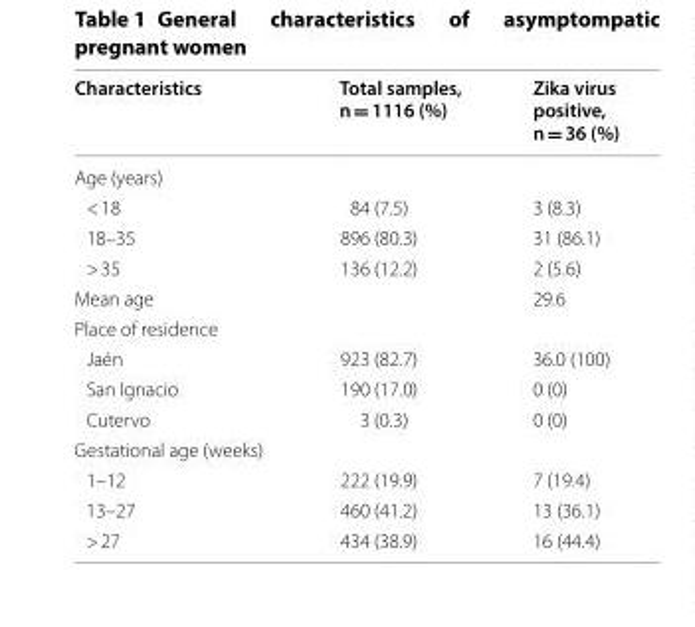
<table><thead><tr><td>Characteristics</td><td>Total samples, n = 1116 (%)</td><td>Zika virus positive, n = 36 (%)</td></tr></thead><tbody><tr><td colspan="3">Age (years)</td></tr><tr><td>&lt; 18</td><td>84 (7.5)</td><td>3 (8.3)</td></tr><tr><td>18–35</td><td>896 (80.3)</td><td>31 (86.1)</td></tr><tr><td>&gt; 35</td><td>136 (12.2)</td><td>2 (5.6)</td></tr><tr><td colspan="2">Mean age</td><td>29.6</td></tr><tr><td colspan="3">Place of residence</td></tr><tr><td>Jaén</td><td>923 (82.7)</td><td>36.0 (100)</td></tr><tr><td>San Ignacio</td><td>190 (17.0)</td><td>0 (0)</td></tr><tr><td>Cutervo</td><td>3 (0.3)</td><td>0 (0)</td></tr><tr><td colspan="3">Gestational age (weeks)</td></tr><tr><td>1–12</td><td>222 (19.9)</td><td>7 (19.4)</td></tr><tr><td>13–27</td><td>460 (41.2)</td><td>13 (36.1)</td></tr><tr><td>&gt; 27</td><td>434 (38.9)</td><td>16 (44.4)</td></tr></tbody></table>